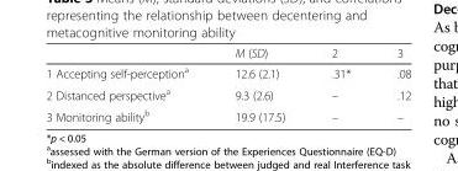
<table><thead><tr><td></td><td>M (SD)</td><td>2</td><td>3</td></tr></thead><tbody><tr><td>1 Accepting self-perception<sup>a</sup></td><td>12.6 (2.1)</td><td>.31*</td><td>.08</td></tr><tr><td>2 Distanced perspective<sup>a</sup></td><td>9.3 (2.6)</td><td>–</td><td>.12</td></tr><tr><td>3 Monitoring ability<sup>b</sup></td><td>19.9 (17.5)</td><td>–</td><td>–</td></tr></tbody></table>